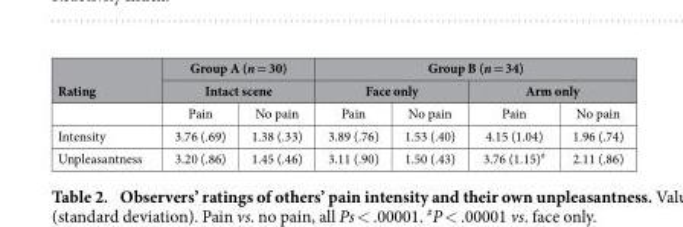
<table><thead><tr><td rowspan="3">Rating</td><td rowspan="2" colspan="2">Group A (n = 30) Intact scene</td><td colspan="4">Group B (n = 34)</td></tr><tr><td colspan="2">Face only</td><td colspan="2">Arm only</td></tr><tr><td>Pain</td><td>No pain</td><td>Pain</td><td>No pain</td><td>Pain</td><td>No pain</td></tr></thead><tbody><tr><td>Intensity</td><td>3.76 (.69)</td><td>1.38 (.33)</td><td>3.89 (.76)</td><td>1.53 (.40)</td><td>4.15 (1.04)</td><td>1.96 (.74)</td></tr><tr><td>Unpleasantness</td><td>3.20 (.86)</td><td>1.45 (.46)</td><td>3.11 (.90)</td><td>1.50 (.43)</td><td>3.76 (1.15)#</td><td>2.11 (.86)</td></tr></tbody></table>